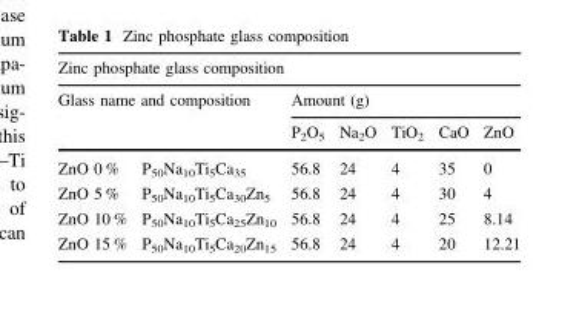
<table><thead><tr><td colspan="7">Zinc phosphate glass composition</td></tr><tr><td colspan="2">Glass name and composition</td><td colspan="5">Amount (g)</td></tr><tr><td></td><td></td><td>P<sub>2</sub>O<sub>5</sub></td><td>Na<sub>2</sub>O</td><td>TiO<sub>2</sub></td><td>CaO</td><td>ZnO</td></tr></thead><tbody><tr><td>ZnO 0 %</td><td>P<sub>50</sub>Na<sub>10</sub>Ti<sub>5</sub>Ca<sub>35</sub></td><td>56.8</td><td>24</td><td>4</td><td>35</td><td>0</td></tr><tr><td>ZnO 5 %</td><td>P<sub>50</sub>Na<sub>10</sub>Ti<sub>5</sub>Ca<sub>30</sub>Zn<sub>5</sub></td><td>56.8</td><td>24</td><td>4</td><td>30</td><td>4</td></tr><tr><td>ZnO 10 %</td><td>P<sub>50</sub>Na<sub>10</sub>Ti<sub>5</sub>Ca<sub>25</sub>Zn<sub>10</sub></td><td>56.8</td><td>24</td><td>4</td><td>25</td><td>8.14</td></tr><tr><td>ZnO 15 %</td><td>P<sub>50</sub>Na<sub>10</sub>Ti<sub>5</sub>Ca<sub>20</sub>Zn<sub>15</sub></td><td>56.8</td><td>24</td><td>4</td><td>20</td><td>12.21</td></tr></tbody></table>